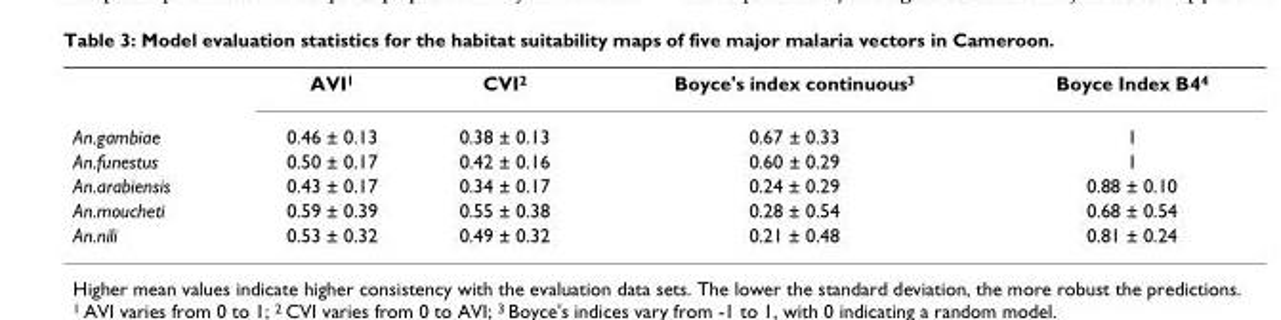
<table><thead><tr><td></td><td>AVI<sup>1</sup></td><td>CVI<sup>2</sup></td><td>Boyce&#x27;s index continuous<sup>3</sup></td><td>Boyce Index B4<sup>4</sup></td></tr></thead><tbody><tr><td>An.gambiae</td><td>0.46 ± 0.13</td><td>0.38 ± 0.13</td><td>0.67 ± 0.33</td><td>1</td></tr><tr><td>An.funestus</td><td>0.50 ± 0.17</td><td>0.42 ± 0.16</td><td>0.60 ± 0.29</td><td>1</td></tr><tr><td>An.arabiensis</td><td>0.43 ± 0.17</td><td>0.34 ± 0.17</td><td>0.24 ± 0.29</td><td>0.88 ± 0.10</td></tr><tr><td>An.moucheti</td><td>0.59 ± 0.39</td><td>0.55 ± 0.38</td><td>0.28 ± 0.54</td><td>0.68 ± 0.54</td></tr><tr><td>An.nili</td><td>0.53 ± 0.32</td><td>0.49 ± 0.32</td><td>0.21 ± 0.48</td><td>0.81 ± 0.24</td></tr></tbody></table>